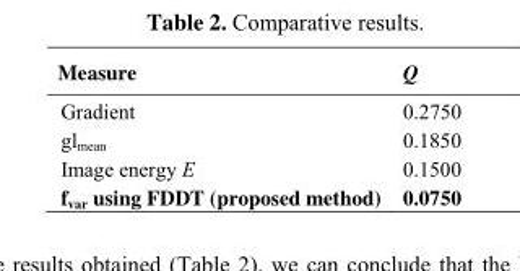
<table><thead><tr><td>Measure</td><td>Q</td></tr></thead><tbody><tr><td>Gradient</td><td>0.2750</td></tr><tr><td>gl<sub>mean</sub></td><td>0.1850</td></tr><tr><td>Image energy E</td><td>0.1500</td></tr><tr><td>f<sub>var</sub> using FDDT (proposed method)</td><td>0.0750</td></tr></tbody></table>